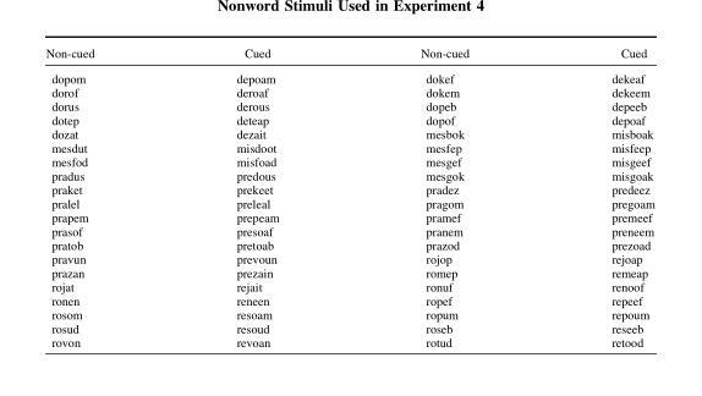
<table><thead><tr><td>Non-cued</td><td>Cued</td><td>Non-cued</td><td>Cued</td></tr></thead><tbody><tr><td>dopom</td><td>depoam</td><td>dokef</td><td>dekeaf</td></tr><tr><td>dorof</td><td>deroaf</td><td>dokem</td><td>dekeem</td></tr><tr><td>dorus</td><td>derous</td><td>dopeb</td><td>depeeb</td></tr><tr><td>dotep</td><td>deteap</td><td>dopof</td><td>depoaf</td></tr><tr><td>dozat</td><td>dezait</td><td>mesbok</td><td>misboak</td></tr><tr><td>mesdut</td><td>misdoot</td><td>mesfep</td><td>misfeep</td></tr><tr><td>mesfod</td><td>misfoad</td><td>mesgef</td><td>misgeef</td></tr><tr><td>pradus</td><td>predous</td><td>mesgok</td><td>misgoak</td></tr><tr><td>praket</td><td>prekeet</td><td>pradez</td><td>predeez</td></tr><tr><td>pralel</td><td>preleal</td><td>pragom</td><td>pregoam</td></tr><tr><td>prapem</td><td>prepeam</td><td>pramef</td><td>premeef</td></tr><tr><td>prasof</td><td>presoaf</td><td>pranem</td><td>preneem</td></tr><tr><td>pratob</td><td>pretoab</td><td>prazod</td><td>prezoad</td></tr><tr><td>pravun</td><td>prevoun</td><td>rojop</td><td>rejoap</td></tr><tr><td>prazan</td><td>prezain</td><td>romep</td><td>remeap</td></tr><tr><td>rojat</td><td>rejait</td><td>ronuf</td><td>renoof</td></tr><tr><td>ronen</td><td>reneen</td><td>ropef</td><td>repeef</td></tr><tr><td>rosom</td><td>resoam</td><td>ropum</td><td>repoum</td></tr><tr><td>rosud</td><td>resoud</td><td>roseb</td><td>reseeb</td></tr><tr><td>rovon</td><td>revoan</td><td>rotud</td><td>retood</td></tr></tbody></table>